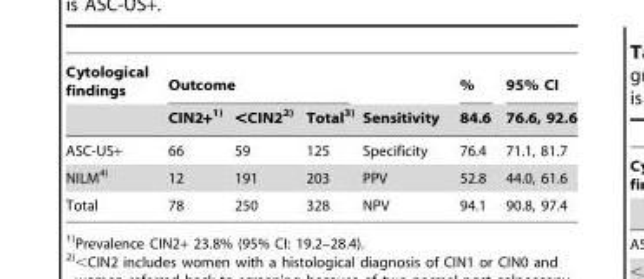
<table><thead><tr><td rowspan="2">Cytological findings</td><td colspan="3">Outcome</td><td rowspan="2">Sensitivity</td><td rowspan="2">% 84.6</td><td rowspan="2">95% CI 76.6, 92.6</td></tr><tr><td>CIN2+1)</td><td>&lt;CIN22)</td><td>Total3)</td></tr></thead><tbody><tr><td>ASC-US+</td><td>66</td><td>59</td><td>125</td><td>Specificity</td><td>76.4</td><td>71.1, 81.7</td></tr><tr><td>NILM4)</td><td>12</td><td>191</td><td>203</td><td>PPV</td><td>52.8</td><td>44.0, 61.6</td></tr><tr><td>Total</td><td>78</td><td>250</td><td>328</td><td>NPV</td><td>94.1</td><td>90.8, 97.4</td></tr></tbody></table>